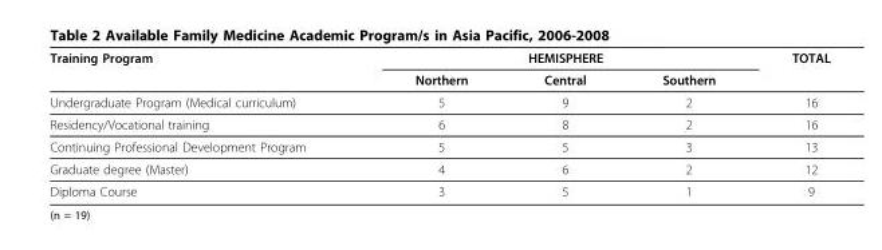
<table><thead><tr><td rowspan="2">Training Program</td><td colspan="3">HEMISPHERE</td><td rowspan="2">TOTAL</td></tr><tr><td>Northern</td><td>Central</td><td>Southern</td></tr></thead><tbody><tr><td>Undergraduate Program (Medical curriculum)</td><td>5</td><td>9</td><td>2</td><td>16</td></tr><tr><td>Residency/Vocational training</td><td>6</td><td>8</td><td>2</td><td>16</td></tr><tr><td>Continuing Professional Development Program</td><td>5</td><td>5</td><td>3</td><td>13</td></tr><tr><td>Graduate degree (Master)</td><td>4</td><td>6</td><td>2</td><td>12</td></tr><tr><td>Diploma Course</td><td>3</td><td>5</td><td>1</td><td>9</td></tr></tbody></table>